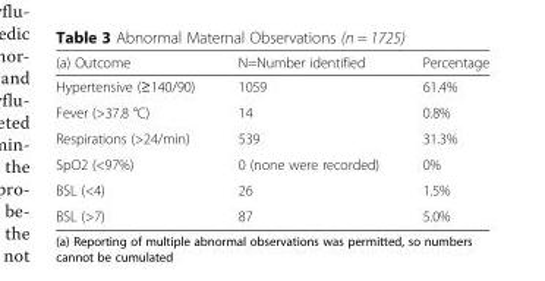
<table><thead><tr><td>(a) Outcome</td><td>N=Number identified</td><td>Percentage</td></tr></thead><tbody><tr><td>Hypertensive (≥140/90)</td><td>1059</td><td>61.4%</td></tr><tr><td>Fever (&gt;37.8 °C)</td><td>14</td><td>0.8%</td></tr><tr><td>Respirations (&gt;24/min)</td><td>539</td><td>31.3%</td></tr><tr><td>SpO2 (&lt;97%)</td><td>0 (none were recorded)</td><td>0%</td></tr><tr><td>BSL (&lt;4)</td><td>26</td><td>1.5%</td></tr><tr><td>BSL (&gt;7)</td><td>87</td><td>5.0%</td></tr></tbody></table>